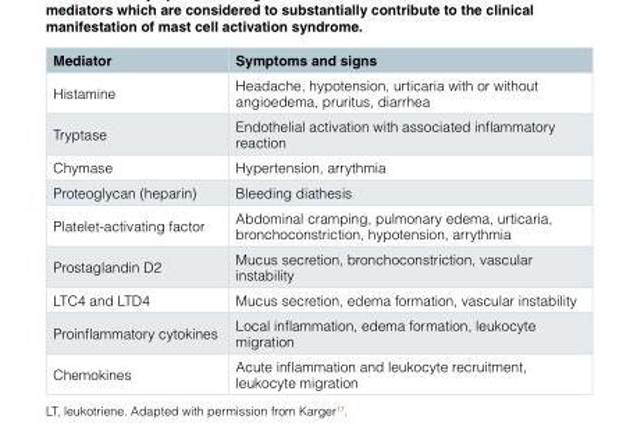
<table><thead><tr><td>Mediator</td><td>Symptoms and signs</td></tr></thead><tbody><tr><td>Histamine</td><td>Headache, hypotension, urticaria with or without angioedema, pruritus, diarrhea</td></tr><tr><td>Tryptase</td><td>Endothelial activation with associated inflammatory reaction</td></tr><tr><td>Chymase</td><td>Hypertension, arrythmia</td></tr><tr><td>Proteoglycan (heparin)</td><td>Bleeding diathesis</td></tr><tr><td>Platelet-activating factor</td><td>Abdominal cramping, pulmonary edema, urticaria, bronchoconstriction, hypotension, arrythmia</td></tr><tr><td>Prostaglandin D2</td><td>Mucus secretion, bronchoconstriction, vascular instability</td></tr><tr><td>LTC4 and LTD4</td><td>Mucus secretion, edema formation, vascular instability</td></tr><tr><td>Proinflammatory cytokines</td><td>Local inflammation, edema formation, leukocyte migration</td></tr><tr><td>Chemokines</td><td>Acute inflammation and leukocyte recruitment, leukocyte migration</td></tr></tbody></table>